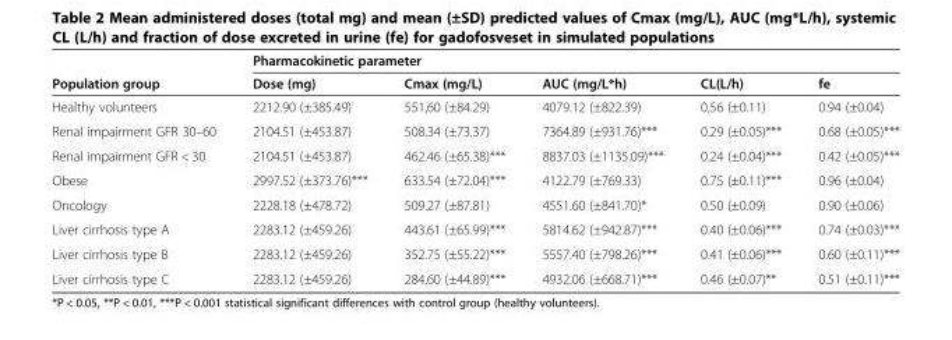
<table><thead><tr><td rowspan="2">Population group</td><td colspan="5">Pharmacokinetic parameter</td></tr><tr><td>Dose (mg)</td><td>Cmax (mg/L)</td><td>AUC (mg/L*h)</td><td>CL(L/h)</td><td>fe</td></tr></thead><tbody><tr><td>Healthy volunteers</td><td>2212.90 (±385.49)</td><td>551,60 (±84.29)</td><td>4079.12 (±822.39)</td><td>0,56 (±0.11)</td><td>0.94 (±0.04)</td></tr><tr><td>Renal impairment GFR 30–60</td><td>2104.51 (±453.87)</td><td>508.34 (±73.37)</td><td>7364.89 (±931.76)***</td><td>0.29 (±0.05)***</td><td>0.68 (±0.05)***</td></tr><tr><td>Renal impairment GFR &lt; 30</td><td>2104.51 (±453.87)</td><td>462.46 (±65.38)***</td><td>8837.03 (±1135.09)***</td><td>0.24 (±0.04)***</td><td>0.42 (±0.05)***</td></tr><tr><td>Obese</td><td>2997.52 (±373.76)***</td><td>633.54 (±72.04)***</td><td>4122.79 (±769.33)</td><td>0.75 (±0.11)***</td><td>0.96 (±0.04)</td></tr><tr><td>Oncology</td><td>2228.18 (±478.72)</td><td>509.27 (±87.81)</td><td>4551.60 (±841.70)*</td><td>0.50 (±0.09)</td><td>0.90 (±0.06)</td></tr><tr><td>Liver cirrhosis type A</td><td>2283.12 (±459.26)</td><td>443.61 (±65.99)***</td><td>5814.62 (±942.87)***</td><td>0.40 (±0.06)***</td><td>0.74 (±0.03)***</td></tr><tr><td>Liver cirrhosis type B</td><td>2283.12 (±459.26)</td><td>352.75 (±55.22)***</td><td>5557.40 (±798.26)***</td><td>0.41 (±0.06)***</td><td>0.60 (±0.11)***</td></tr><tr><td>Liver cirrhosis type C</td><td>2283.12 (±459.26)</td><td>284.60 (±44.89)***</td><td>4932.06 (±668.71)***</td><td>0.46 (±0.07)**</td><td>0.51 (±0.11)***</td></tr></tbody></table>